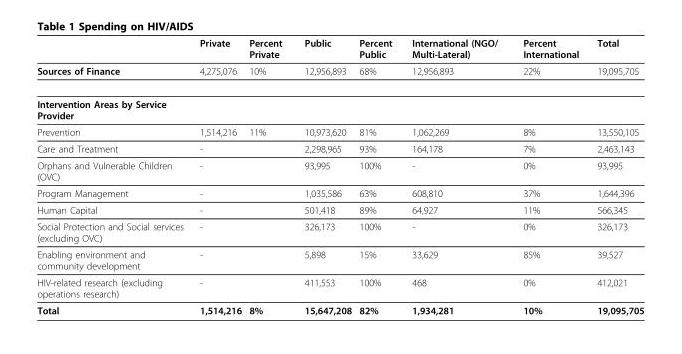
<table><thead><tr><td></td><td>Private</td><td>Percent Private</td><td>Public</td><td>Percent Public</td><td>International (NGO/ Multi-Lateral)</td><td>Percent International</td><td>Total</td></tr></thead><tbody><tr><td>Sources of Finance</td><td>4,275,076</td><td>10%</td><td>12,956,893</td><td>68%</td><td>12,956,893</td><td>22%</td><td>19,095,705</td></tr><tr><td colspan="8">Intervention Areas by Service Provider</td></tr><tr><td>Prevention</td><td>1,514,216</td><td>11%</td><td>10,973,620</td><td>81%</td><td>1,062,269</td><td>8%</td><td>13,550,105</td></tr><tr><td>Care and Treatment</td><td>-</td><td></td><td>2,298,965</td><td>93%</td><td>164,178</td><td>7%</td><td>2,463,143</td></tr><tr><td>Orphans and Vulnerable Children (OVC)</td><td>-</td><td></td><td>93,995</td><td>100%</td><td>-</td><td>0%</td><td>93,995</td></tr><tr><td>Program Management</td><td>-</td><td></td><td>1,035,586</td><td>63%</td><td>608,810</td><td>37%</td><td>1,644,396</td></tr><tr><td>Human Capital</td><td>-</td><td></td><td>501,418</td><td>89%</td><td>64,927</td><td>11%</td><td>566,345</td></tr><tr><td>Social Protection and Social services (excluding OVC)</td><td>-</td><td></td><td>326,173</td><td>100%</td><td>-</td><td>0%</td><td>326,173</td></tr><tr><td>Enabling environment and community development</td><td>-</td><td></td><td>5,898</td><td>15%</td><td>33,629</td><td>85%</td><td>39,527</td></tr><tr><td>HIV-related research (excluding operations research)</td><td>-</td><td></td><td>411,553</td><td>100%</td><td>468</td><td>0%</td><td>412,021</td></tr><tr><td>Total</td><td>1,514,216</td><td>8%</td><td>15,647,208</td><td>82%</td><td>1,934,281</td><td>10%</td><td>19,095,705</td></tr></tbody></table>